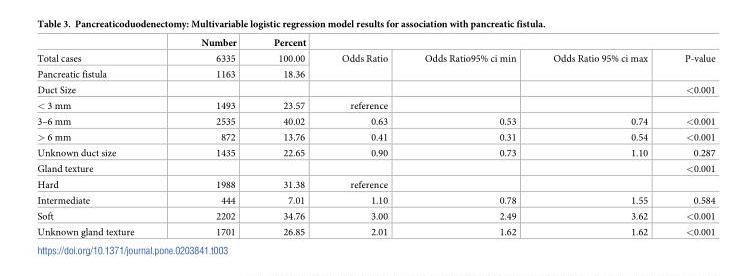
<table><thead><tr><td></td><td>Number</td><td>Percent</td><td></td><td></td><td></td><td></td></tr></thead><tbody><tr><td>Total cases</td><td>6335</td><td>100.00</td><td rowspan="2">Odds Ratio</td><td rowspan="2">Odds Ratio95% ci min</td><td rowspan="2">Odds Ratio 95% ci max</td><td rowspan="2">P-value</td></tr><tr><td>Pancreatic fistula</td><td>1163</td><td>18.36</td></tr><tr><td>Duct Size</td><td></td><td></td><td></td><td></td><td></td><td>&lt;0.001</td></tr><tr><td>&lt; 3 mm</td><td>1493</td><td>23.57</td><td>reference</td><td></td><td></td><td></td></tr><tr><td>3–6 mm</td><td>2535</td><td>40.02</td><td>0.63</td><td>0.53</td><td>0.74</td><td>&lt;0.001</td></tr><tr><td>&gt; 6 mm</td><td>872</td><td>13.76</td><td>0.41</td><td>0.31</td><td>0.54</td><td>&lt;0.001</td></tr><tr><td>Unknown duct size</td><td>1435</td><td>22.65</td><td>0.90</td><td>0.73</td><td>1.10</td><td>0.287</td></tr><tr><td>Gland texture</td><td></td><td></td><td></td><td></td><td></td><td>&lt;0.001</td></tr><tr><td>Hard</td><td>1988</td><td>31.38</td><td>reference</td><td></td><td></td><td></td></tr><tr><td>Intermediate</td><td>444</td><td>7.01</td><td>1.10</td><td>0.78</td><td>1.55</td><td>0.584</td></tr><tr><td>Soft</td><td>2202</td><td>34.76</td><td>3.00</td><td>2.49</td><td>3.62</td><td>&lt;0.001</td></tr><tr><td>Unknown gland texture</td><td>1701</td><td>26.85</td><td>2.01</td><td>1.62</td><td>1.62</td><td>&lt;0.001</td></tr></tbody></table>